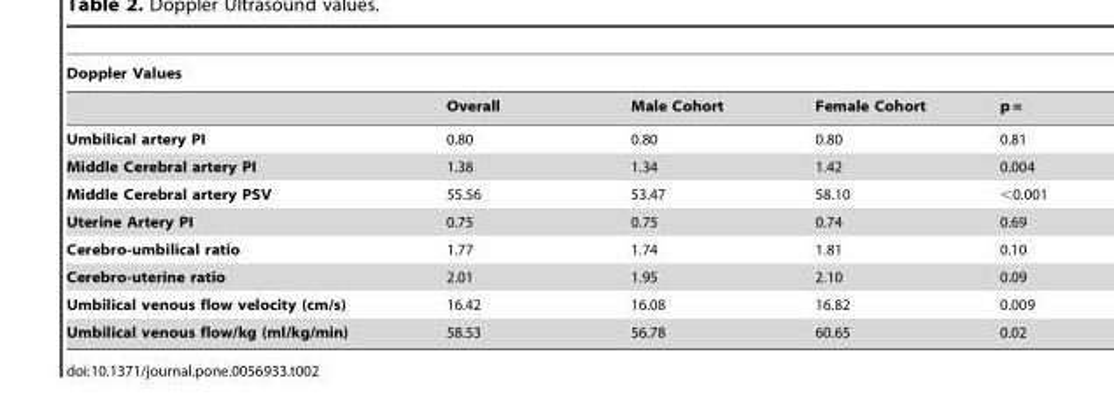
<table><thead><tr><td colspan="5">Doppler Values</td></tr><tr><td></td><td>Overall</td><td>Male Cohort</td><td>Female Cohort</td><td>p =</td></tr></thead><tbody><tr><td>Umbilical artery PI</td><td>0.80</td><td>0.80</td><td>0.80</td><td>0.81</td></tr><tr><td>Middle Cerebral artery PI</td><td>1.38</td><td>1.34</td><td>1.42</td><td>0.004</td></tr><tr><td>Middle Cerebral artery PSV</td><td>55.56</td><td>53.47</td><td>58.10</td><td>&lt;0.001</td></tr><tr><td>Uterine Artery PI</td><td>0.75</td><td>0.75</td><td>0.74</td><td>0.69</td></tr><tr><td>Cerebro-umbilical ratio</td><td>1.77</td><td>1.74</td><td>1.81</td><td>0.10</td></tr><tr><td>Cerebro-uterine ratio</td><td>2.01</td><td>1.95</td><td>2.10</td><td>0.09</td></tr><tr><td>Umbilical venous flow velocity (cm/s)</td><td>16.42</td><td>16.08</td><td>16.82</td><td>0.009</td></tr><tr><td>Umbilical venous flow/kg (ml/kg/min)</td><td>58.53</td><td>56.78</td><td>60.65</td><td>0.02</td></tr></tbody></table>